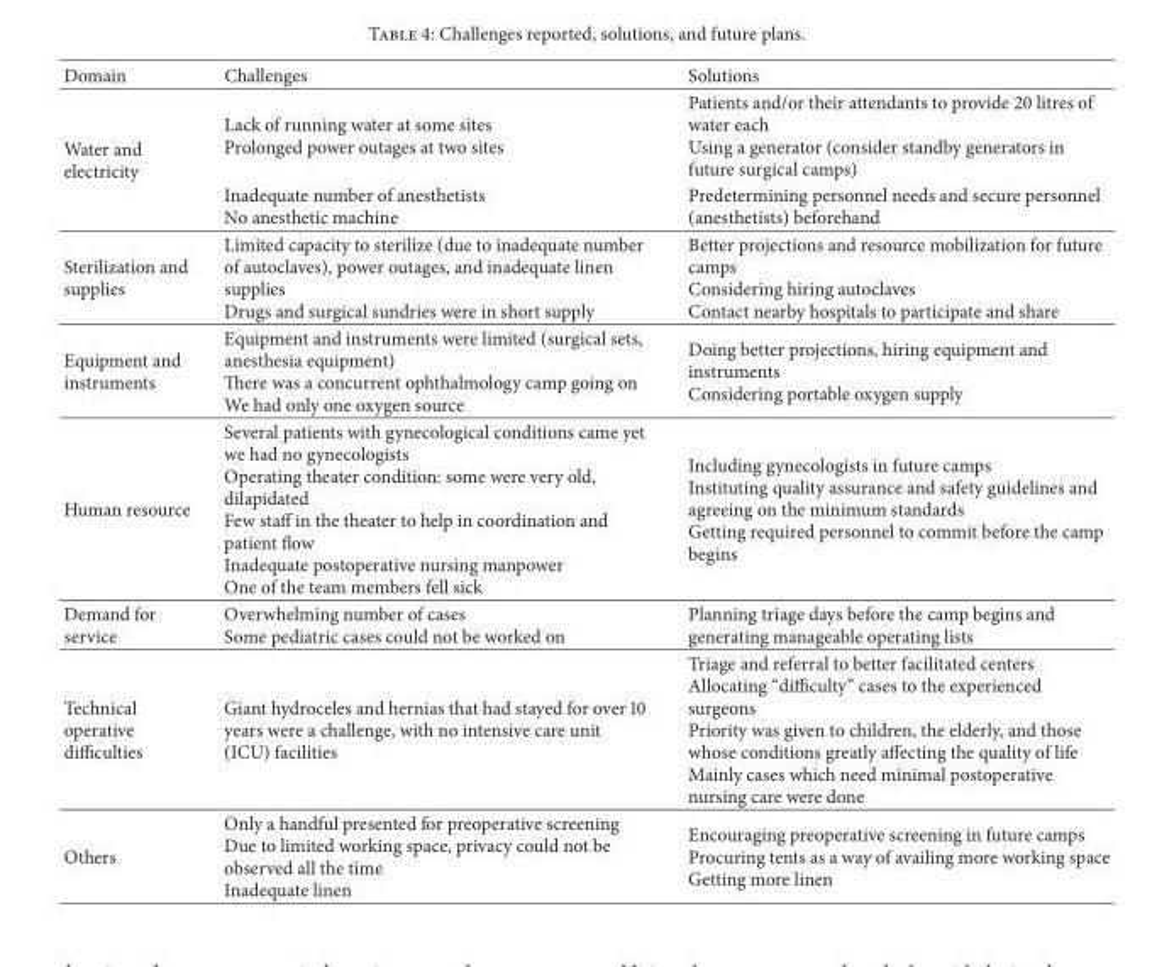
<table><thead><tr><td>Domain</td><td>Challenges</td><td>Solutions</td></tr></thead><tbody><tr><td rowspan="2">Water and electricity</td><td>Lack of running water at some sites Prolonged power outages at two sites</td><td>Patients and/or their attendants to provide 20 litres of water each Using a generator (consider standby generators in future surgical camps)</td></tr><tr><td>Inadequate number of anesthetists No anesthetic machine</td><td>Predetermining personnel needs and secure personnel (anesthetists) beforehand</td></tr><tr><td>Sterilization and supplies</td><td>Limited capacity to sterilize (due to inadequate number of autoclaves), power outages, and inadequate linen supplies Drugs and surgical sundries were in short supply</td><td>Better projections and resource mobilization for future camps Considering hiring autoclaves Contact nearby hospitals to participate and share</td></tr><tr><td>Equipment and instruments</td><td>Equipment and instruments were limited (surgical sets, anesthesia equipment) There was a concurrent ophthalmology camp going on We had only one oxygen source</td><td>Doing better projections, hiring equipment and instruments Considering portable oxygen supply</td></tr><tr><td>Human resource</td><td>Several patients with gynecological conditions came yet we had no gynecologists Operating theater condition: some were very old, dilapidated Few staff in the theater to help in coordination and patient flow Inadequate postoperative nursing manpower One of the team members fell sick</td><td>Including gynecologists in future camps Instituting quality assurance and safety guidelines and agreeing on the minimum standards Getting required personnel to commit before the camp begins</td></tr><tr><td>Demand for service</td><td>Overwhelming number of cases Some pediatric cases could not be worked on</td><td>Planning triage days before the camp begins and generating manageable operating lists</td></tr><tr><td>Technical operative difficulties</td><td>Giant hydroceles and hernias that had stayed for over 10 years were a challenge, with no intensive care unit (ICU) facilities</td><td>Triage and referral to better facilitated centers Allocating “difficulty” cases to the experienced surgeons Priority was given to children, the elderly, and those whose conditions greatly affecting the quality of life Mainly cases which need minimal postoperative nursing care were done</td></tr><tr><td>Others</td><td>Only a handful presented for preoperative screening Due to limited working space, privacy could not be observed all the time Inadequate linen</td><td>Encouraging preoperative screening in future camps Procuring tents as a way of availing more working space Getting more linen</td></tr></tbody></table>